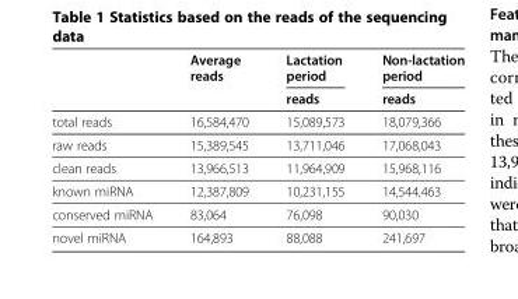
<table><thead><tr><td rowspan="2"></td><td rowspan="2">Average reads</td><td rowspan="2">Lactation period reads</td><td rowspan="2">Non-lactation period reads</td></tr><tr></tr></thead><tbody><tr><td>total reads</td><td>16,584,470</td><td>15,089,573</td><td>18,079,366</td></tr><tr><td>raw reads</td><td>15,389,545</td><td>13,711,046</td><td>17,068,043</td></tr><tr><td>clean reads</td><td>13,966,513</td><td>11,964,909</td><td>15,968,116</td></tr><tr><td>known miRNA</td><td>12,387,809</td><td>10,231,155</td><td>14,544,463</td></tr><tr><td>conserved miRNA</td><td>83,064</td><td>76,098</td><td>90,030</td></tr><tr><td>novel miRNA</td><td>164,893</td><td>88,088</td><td>241,697</td></tr></tbody></table>